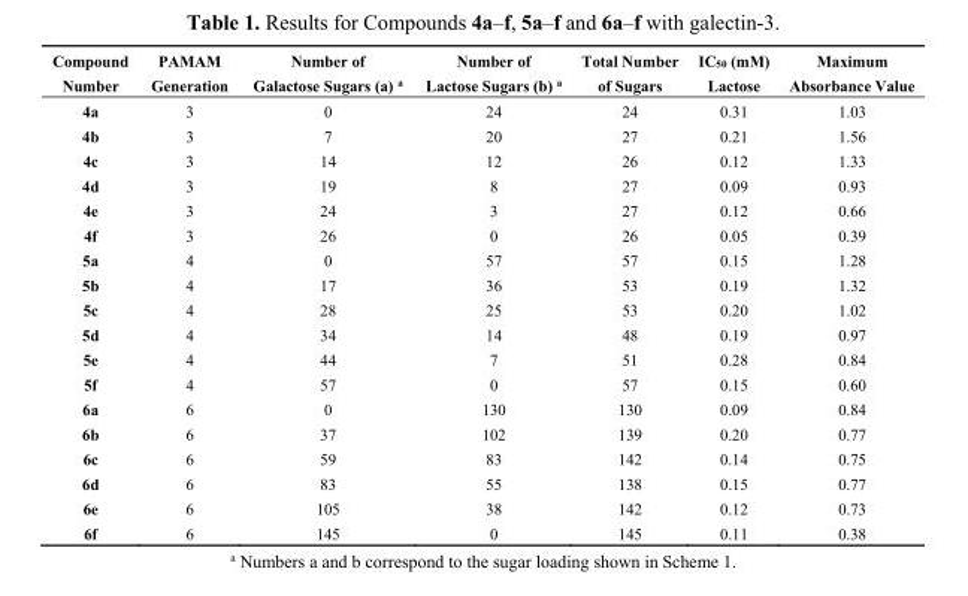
<table><thead><tr><td>Compound Number</td><td>PAMAM Generation</td><td>Number of Galactose Sugars (a) <sup>a</sup></td><td>Number of Lactose Sugars (b) <sup>a</sup></td><td>Total Number of Sugars</td><td>IC<sub>50</sub> (mM) Lactose</td><td>Maximum Absorbance Value</td></tr></thead><tbody><tr><td>4a</td><td>3</td><td>0</td><td>24</td><td>24</td><td>0.31</td><td>1.03</td></tr><tr><td>4b</td><td>3</td><td>7</td><td>20</td><td>27</td><td>0.21</td><td>1.56</td></tr><tr><td>4c</td><td>3</td><td>14</td><td>12</td><td>26</td><td>0.12</td><td>1.33</td></tr><tr><td>4d</td><td>3</td><td>19</td><td>8</td><td>27</td><td>0.09</td><td>0.93</td></tr><tr><td>4e</td><td>3</td><td>24</td><td>3</td><td>27</td><td>0.12</td><td>0.66</td></tr><tr><td>4f</td><td>3</td><td>26</td><td>0</td><td>26</td><td>0.05</td><td>0.39</td></tr><tr><td>5a</td><td>4</td><td>0</td><td>57</td><td>57</td><td>0.15</td><td>1.28</td></tr><tr><td>5b</td><td>4</td><td>17</td><td>36</td><td>53</td><td>0.19</td><td>1.32</td></tr><tr><td>5c</td><td>4</td><td>28</td><td>25</td><td>53</td><td>0.20</td><td>1.02</td></tr><tr><td>5d</td><td>4</td><td>34</td><td>14</td><td>48</td><td>0.19</td><td>0.97</td></tr><tr><td>5e</td><td>4</td><td>44</td><td>7</td><td>51</td><td>0.28</td><td>0.84</td></tr><tr><td>5f</td><td>4</td><td>57</td><td>0</td><td>57</td><td>0.15</td><td>0.60</td></tr><tr><td>6a</td><td>6</td><td>0</td><td>130</td><td>130</td><td>0.09</td><td>0.84</td></tr><tr><td>6b</td><td>6</td><td>37</td><td>102</td><td>139</td><td>0.20</td><td>0.77</td></tr><tr><td>6c</td><td>6</td><td>59</td><td>83</td><td>142</td><td>0.14</td><td>0.75</td></tr><tr><td>6d</td><td>6</td><td>83</td><td>55</td><td>138</td><td>0.15</td><td>0.77</td></tr><tr><td>6e</td><td>6</td><td>105</td><td>38</td><td>142</td><td>0.12</td><td>0.73</td></tr><tr><td>6f</td><td>6</td><td>145</td><td>0</td><td>145</td><td>0.11</td><td>0.38</td></tr></tbody></table>